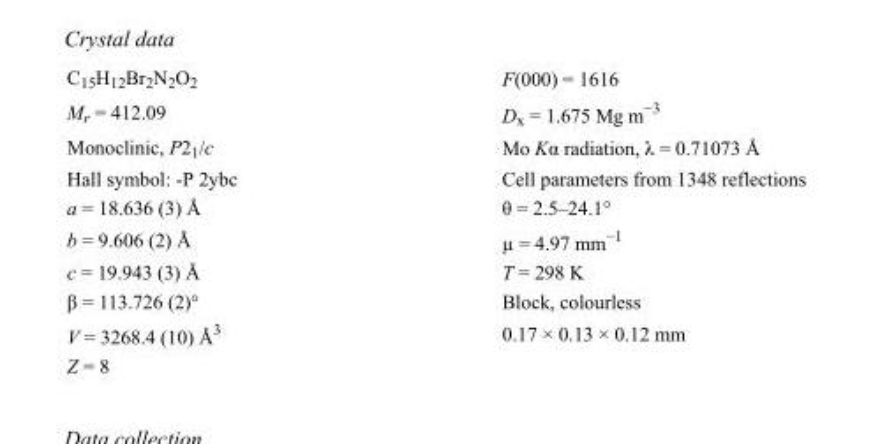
<table><tbody><tr><td>C<sub>15</sub>H<sub>12</sub>Br<sub>2</sub>N<sub>2</sub>O<sub>2</sub></td><td>F(000) = 1616</td></tr><tr><td>M<sub>r</sub> = 412.09</td><td>D<sub>x</sub> = 1.675 Mg m<sup>−3</sup></td></tr><tr><td>Monoclinic, P2<sub>1</sub>/c</td><td>Mo Kα radiation, λ = 0.71073 Å</td></tr><tr><td>Hall symbol: -P 2ybc</td><td>Cell parameters from 1348 reflections</td></tr><tr><td>a = 18.636 (3) Å</td><td>θ = 2.5–24.1°</td></tr><tr><td>b = 9.606 (2) Å</td><td>µ = 4.97 mm<sup>−1</sup></td></tr><tr><td>c = 19.943 (3) Å</td><td>T = 298 K</td></tr><tr><td>β = 113.726 (2)°</td><td>Block, colourless</td></tr><tr><td>V = 3268.4 (10) Å<sup>3</sup></td><td>0.17 × 0.13 × 0.12 mm</td></tr><tr><td>Z = 8</td><td></td></tr></tbody></table>